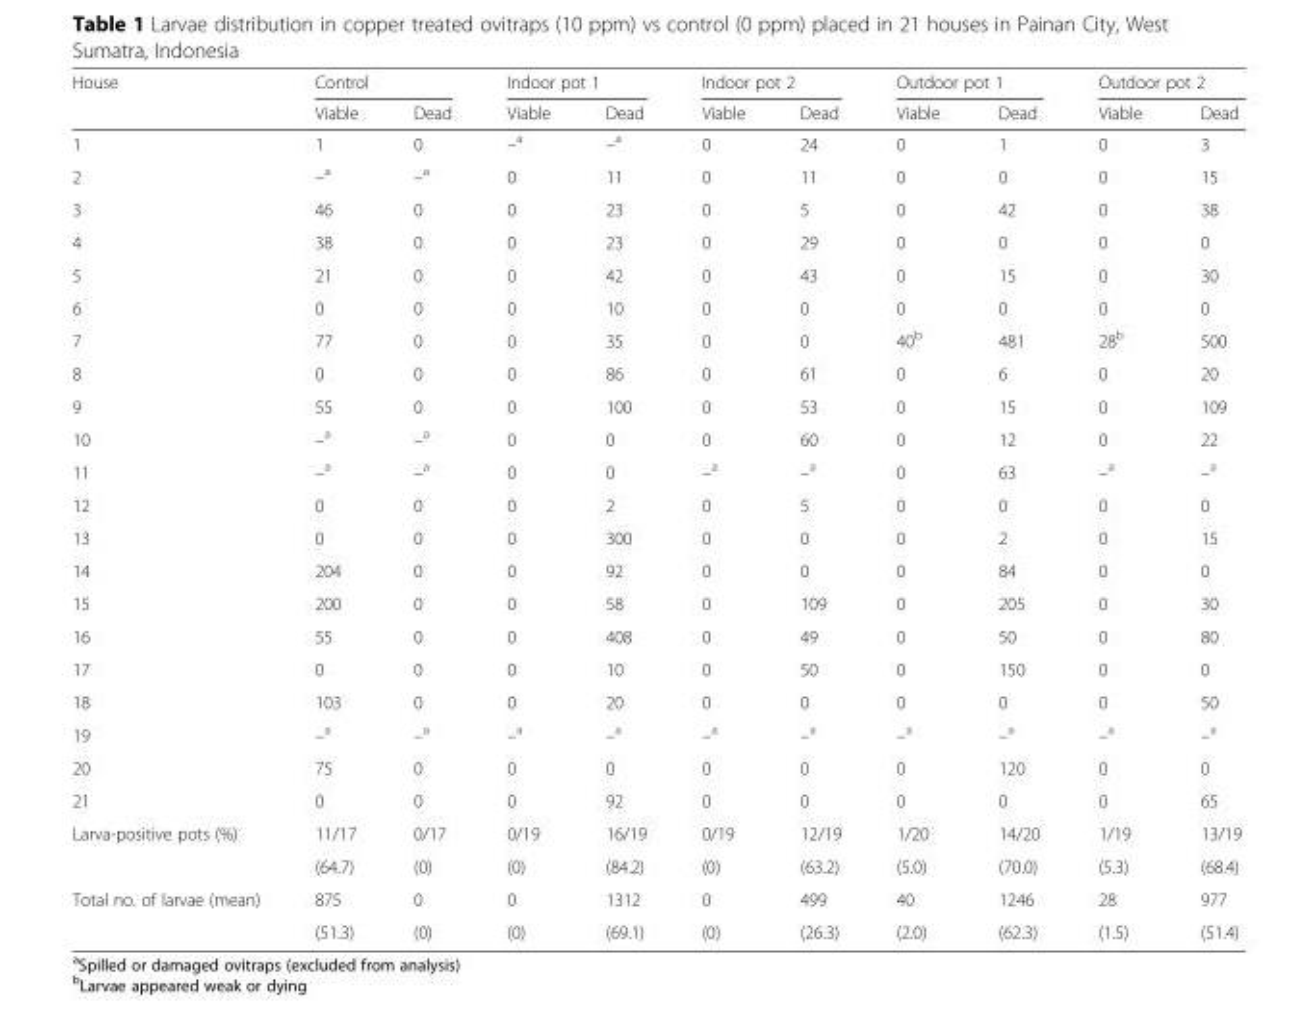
<table><thead><tr><td rowspan="2">House</td><td colspan="2">Control</td><td colspan="2">Indoor pot 1</td><td colspan="2">Indoor pot 2</td><td colspan="2">Outdoor pot 1</td><td colspan="2">Outdoor pot 2</td></tr><tr><td>Viable</td><td>Dead</td><td>Viable</td><td>Dead</td><td>Viable</td><td>Dead</td><td>Viable</td><td>Dead</td><td>Viable</td><td>Dead</td></tr></thead><tbody><tr><td>1</td><td>1</td><td>0</td><td>–<sup>a</sup></td><td>–<sup>a</sup></td><td>0</td><td>24</td><td>0</td><td>1</td><td>0</td><td>3</td></tr><tr><td>2</td><td>–<sup>a</sup></td><td>–<sup>a</sup></td><td>0</td><td>11</td><td>0</td><td>11</td><td>0</td><td>0</td><td>0</td><td>15</td></tr><tr><td>3</td><td>46</td><td>0</td><td>0</td><td>23</td><td>0</td><td>5</td><td>0</td><td>42</td><td>0</td><td>38</td></tr><tr><td>4</td><td>38</td><td>0</td><td>0</td><td>23</td><td>0</td><td>29</td><td>0</td><td>0</td><td>0</td><td>0</td></tr><tr><td>5</td><td>21</td><td>0</td><td>0</td><td>42</td><td>0</td><td>43</td><td>0</td><td>15</td><td>0</td><td>30</td></tr><tr><td>6</td><td>0</td><td>0</td><td>0</td><td>10</td><td>0</td><td>0</td><td>0</td><td>0</td><td>0</td><td>0</td></tr><tr><td>7</td><td>77</td><td>0</td><td>0</td><td>35</td><td>0</td><td>0</td><td>40<sup>b</sup></td><td>481</td><td>28<sup>b</sup></td><td>500</td></tr><tr><td>8</td><td>0</td><td>0</td><td>0</td><td>86</td><td>0</td><td>61</td><td>0</td><td>6</td><td>0</td><td>20</td></tr><tr><td>9</td><td>55</td><td>0</td><td>0</td><td>100</td><td>0</td><td>53</td><td>0</td><td>15</td><td>0</td><td>109</td></tr><tr><td>10</td><td>–<sup>a</sup></td><td>–<sup>a</sup></td><td>0</td><td>0</td><td>0</td><td>60</td><td>0</td><td>12</td><td>0</td><td>22</td></tr><tr><td>11</td><td>–<sup>a</sup></td><td>–<sup>a</sup></td><td>0</td><td>0</td><td>–<sup>a</sup></td><td>–<sup>a</sup></td><td>0</td><td>63</td><td>–<sup>a</sup></td><td>–<sup>a</sup></td></tr><tr><td>12</td><td>0</td><td>0</td><td>0</td><td>2</td><td>0</td><td>5</td><td>0</td><td>0</td><td>0</td><td>0</td></tr><tr><td>13</td><td>0</td><td>0</td><td>0</td><td>300</td><td>0</td><td>0</td><td>0</td><td>2</td><td>0</td><td>15</td></tr><tr><td>14</td><td>204</td><td>0</td><td>0</td><td>92</td><td>0</td><td>0</td><td>0</td><td>84</td><td>0</td><td>0</td></tr><tr><td>15</td><td>200</td><td>0</td><td>0</td><td>58</td><td>0</td><td>109</td><td>0</td><td>205</td><td>0</td><td>30</td></tr><tr><td>16</td><td>55</td><td>0</td><td>0</td><td>408</td><td>0</td><td>49</td><td>0</td><td>50</td><td>0</td><td>80</td></tr><tr><td>17</td><td>0</td><td>0</td><td>0</td><td>10</td><td>0</td><td>50</td><td>0</td><td>150</td><td>0</td><td>0</td></tr><tr><td>18</td><td>103</td><td>0</td><td>0</td><td>20</td><td>0</td><td>0</td><td>0</td><td>0</td><td>0</td><td>50</td></tr><tr><td>19</td><td>–<sup>a</sup></td><td>–<sup>a</sup></td><td>–<sup>a</sup></td><td>–<sup>a</sup></td><td>–<sup>a</sup></td><td>–<sup>a</sup></td><td>–<sup>a</sup></td><td>–<sup>a</sup></td><td>–<sup>a</sup></td><td>–<sup>a</sup></td></tr><tr><td>20</td><td>75</td><td>0</td><td>0</td><td>0</td><td>0</td><td>0</td><td>0</td><td>120</td><td>0</td><td>0</td></tr><tr><td>21</td><td>0</td><td>0</td><td>0</td><td>92</td><td>0</td><td>0</td><td>0</td><td>0</td><td>0</td><td>65</td></tr><tr><td rowspan="2">Larva-positive pots (%)</td><td>11/17</td><td>0/17</td><td>0/19</td><td>16/19</td><td>0/19</td><td>12/19</td><td>1/20</td><td>14/20</td><td>1/19</td><td>13/19</td></tr><tr><td>(64.7)</td><td>(0)</td><td>(0)</td><td>(84.2)</td><td>(0)</td><td>(63.2)</td><td>(5.0)</td><td>(70.0)</td><td>(5.3)</td><td>(68.4)</td></tr><tr><td rowspan="2">Total no. of larvae (mean)</td><td>875</td><td>0</td><td>0</td><td>1312</td><td>0</td><td>499</td><td>40</td><td>1246</td><td>28</td><td>977</td></tr><tr><td>(51.3)</td><td>(0)</td><td>(0)</td><td>(69.1)</td><td>(0)</td><td>(26.3)</td><td>(2.0)</td><td>(62.3)</td><td>(1.5)</td><td>(51.4)</td></tr></tbody></table>